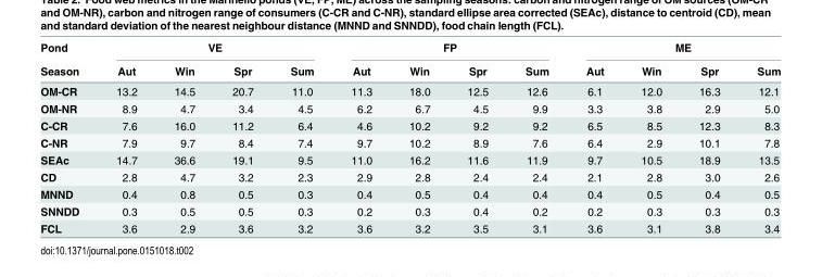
<table><thead><tr><td rowspan="2">Pond Season</td><td colspan="4">VE</td><td colspan="4">FP</td><td colspan="4">ME</td></tr><tr><td>Aut</td><td>Win</td><td>Spr</td><td>Sum</td><td>Aut</td><td>Win</td><td>Spr</td><td>Sum</td><td>Aut</td><td>Win</td><td>Spr</td><td>Sum</td></tr></thead><tbody><tr><td>OM-CR</td><td>13.2</td><td>14.5</td><td>20.7</td><td>11.0</td><td>11.3</td><td>18.0</td><td>12.5</td><td>12.6</td><td>6.1</td><td>12.0</td><td>16.3</td><td>12.1</td></tr><tr><td>OM-NR</td><td>8.9</td><td>4.7</td><td>3.4</td><td>4.5</td><td>6.2</td><td>6.7</td><td>4.5</td><td>9.9</td><td>3.3</td><td>3.8</td><td>2.9</td><td>5.0</td></tr><tr><td>C-CR</td><td>7.6</td><td>16.0</td><td>11.2</td><td>6.4</td><td>4.6</td><td>10.2</td><td>9.2</td><td>9.2</td><td>6.5</td><td>8.5</td><td>12.3</td><td>8.3</td></tr><tr><td>C-NR</td><td>7.9</td><td>9.7</td><td>8.4</td><td>7.4</td><td>9.7</td><td>10.2</td><td>8.9</td><td>7.6</td><td>6.4</td><td>2.9</td><td>10.1</td><td>7.8</td></tr><tr><td>SEAc</td><td>14.7</td><td>36.6</td><td>19.1</td><td>9.5</td><td>11.0</td><td>16.2</td><td>11.6</td><td>11.9</td><td>9.7</td><td>10.5</td><td>18.9</td><td>13.5</td></tr><tr><td>CD</td><td>2.8</td><td>4.7</td><td>3.2</td><td>2.3</td><td>2.9</td><td>2.8</td><td>2.4</td><td>2.4</td><td>2.1</td><td>2.8</td><td>3.0</td><td>2.6</td></tr><tr><td>MNND</td><td>0.4</td><td>0.8</td><td>0.5</td><td>0.3</td><td>0.4</td><td>0.5</td><td>0.4</td><td>0.4</td><td>0.4</td><td>0.5</td><td>0.4</td><td>0.5</td></tr><tr><td>SNNDD</td><td>0.3</td><td>0.5</td><td>0.5</td><td>0.3</td><td>0.2</td><td>0.3</td><td>0.4</td><td>0.2</td><td>0.2</td><td>0.3</td><td>0.3</td><td>0.3</td></tr><tr><td>FCL</td><td>3.6</td><td>2.9</td><td>3.6</td><td>3.2</td><td>3.6</td><td>3.2</td><td>3.5</td><td>3.1</td><td>3.6</td><td>3.1</td><td>3.8</td><td>3.4</td></tr></tbody></table>